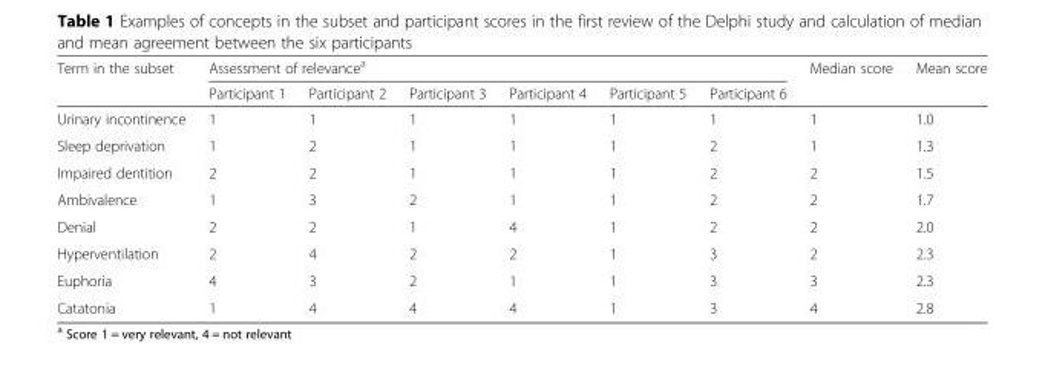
<table><thead><tr><td rowspan="2">Term in the subset</td><td colspan="6">Assessment of relevance<sup>a</sup></td><td rowspan="2">Median score</td><td rowspan="2">Mean score</td></tr><tr><td>Participant 1</td><td>Participant 2</td><td>Participant 3</td><td>Participant 4</td><td>Participant 5</td><td>Participant 6</td></tr></thead><tbody><tr><td>Urinary incontinence</td><td>1</td><td>1</td><td>1</td><td>1</td><td>1</td><td>1</td><td>1</td><td>1.0</td></tr><tr><td>Sleep deprivation</td><td>1</td><td>2</td><td>1</td><td>1</td><td>1</td><td>2</td><td>1</td><td>1.3</td></tr><tr><td>Impaired dentition</td><td>2</td><td>2</td><td>1</td><td>1</td><td>1</td><td>2</td><td>2</td><td>1.5</td></tr><tr><td>Ambivalence</td><td>1</td><td>3</td><td>2</td><td>1</td><td>1</td><td>2</td><td>2</td><td>1.7</td></tr><tr><td>Denial</td><td>2</td><td>2</td><td>1</td><td>4</td><td>1</td><td>2</td><td>2</td><td>2.0</td></tr><tr><td>Hyperventilation</td><td>2</td><td>4</td><td>2</td><td>2</td><td>1</td><td>3</td><td>2</td><td>2.3</td></tr><tr><td>Euphoria</td><td>4</td><td>3</td><td>2</td><td>1</td><td>1</td><td>3</td><td>3</td><td>2.3</td></tr><tr><td>Catatonia</td><td>1</td><td>4</td><td>4</td><td>4</td><td>1</td><td>3</td><td>4</td><td>2.8</td></tr></tbody></table>